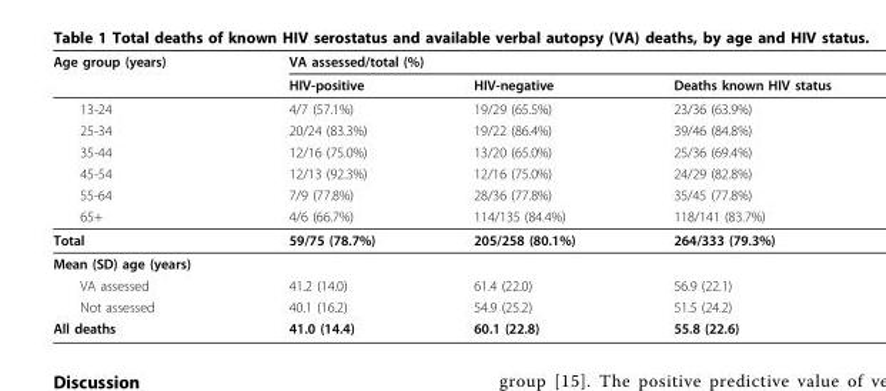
<table><thead><tr><td rowspan="2">Age group (years)</td><td colspan="3">VA assessed/total (%)</td></tr><tr><td>HIV-positive</td><td>HIV-negative</td><td>Deaths known HIV status</td></tr></thead><tbody><tr><td>13-24</td><td>4/7 (57.1%)</td><td>19/29 (65.5%)</td><td>23/36 (63.9%)</td></tr><tr><td>25-34</td><td>20/24 (83.3%)</td><td>19/22 (86.4%)</td><td>39/46 (84.8%)</td></tr><tr><td>35-44</td><td>12/16 (75.0%)</td><td>13/20 (65.0%)</td><td>25/36 (69.4%)</td></tr><tr><td>45-54</td><td>12/13 (92.3%)</td><td>12/16 (75.0%)</td><td>24/29 (82.8%)</td></tr><tr><td>55-64</td><td>7/9 (77.8%)</td><td>28/36 (77.8%)</td><td>35/45 (77.8%)</td></tr><tr><td>65+</td><td>4/6 (66.7%)</td><td>114/135 (84.4%)</td><td>118/141 (83.7%)</td></tr><tr><td>Total</td><td>59/75 (78.7%)</td><td>205/258 (80.1%)</td><td>264/333 (79.3%)</td></tr><tr><td colspan="4">Mean (SD) age (years)</td></tr><tr><td>VA assessed</td><td>41.2 (14.0)</td><td>61.4 (22.0)</td><td>56.9 (22.1)</td></tr><tr><td>Not assessed</td><td>40.1 (16.2)</td><td>54.9 (25.2)</td><td>51.5 (24.2)</td></tr><tr><td>All deaths</td><td>41.0 (14.4)</td><td>60.1 (22.8)</td><td>55.8 (22.6)</td></tr></tbody></table>